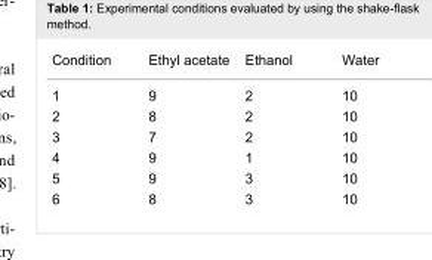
<table><tbody><tr><td>Condition</td><td>Ethyl acetate</td><td>Ethanol</td><td>Water</td></tr><tr><td>1</td><td>9</td><td>2</td><td>10</td></tr><tr><td>2</td><td>8</td><td>2</td><td>10</td></tr><tr><td>3</td><td>7</td><td>2</td><td>10</td></tr><tr><td>4</td><td>9</td><td>1</td><td>10</td></tr><tr><td>5</td><td>9</td><td>3</td><td>10</td></tr><tr><td>6</td><td>8</td><td>3</td><td>10</td></tr></tbody></table>